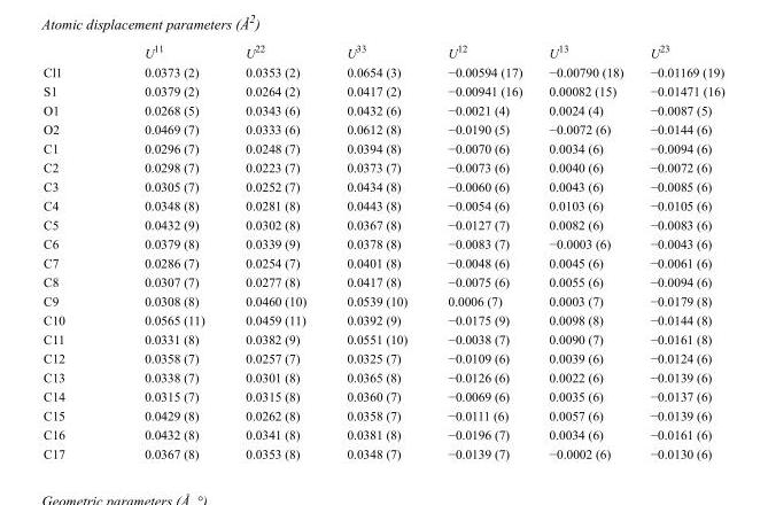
<table><thead><tr><td></td><td>U<sup>11</sup></td><td>U<sup>22</sup></td><td>U<sup>33</sup></td><td>U<sup>12</sup></td><td>U<sup>13</sup></td><td>U<sup>23</sup></td></tr></thead><tbody><tr><td>Cl1</td><td>0.0373 (2)</td><td>0.0353 (2)</td><td>0.0654 (3)</td><td>−0.00594 (17)</td><td>−0.00790 (18)</td><td>−0.01169 (19)</td></tr><tr><td>S1</td><td>0.0379 (2)</td><td>0.0264 (2)</td><td>0.0417 (2)</td><td>−0.00941 (16)</td><td>0.00082 (15)</td><td>−0.01471 (16)</td></tr><tr><td>O1</td><td>0.0268 (5)</td><td>0.0343 (6)</td><td>0.0432 (6)</td><td>−0.0021 (4)</td><td>0.0024 (4)</td><td>−0.0087 (5)</td></tr><tr><td>O2</td><td>0.0469 (7)</td><td>0.0333 (6)</td><td>0.0612 (8)</td><td>−0.0190 (5)</td><td>−0.0072 (6)</td><td>−0.0144 (6)</td></tr><tr><td>C1</td><td>0.0296 (7)</td><td>0.0248 (7)</td><td>0.0394 (8)</td><td>−0.0070 (6)</td><td>0.0034 (6)</td><td>−0.0094 (6)</td></tr><tr><td>C2</td><td>0.0298 (7)</td><td>0.0223 (7)</td><td>0.0373 (7)</td><td>−0.0073 (6)</td><td>0.0040 (6)</td><td>−0.0072 (6)</td></tr><tr><td>C3</td><td>0.0305 (7)</td><td>0.0252 (7)</td><td>0.0434 (8)</td><td>−0.0060 (6)</td><td>0.0043 (6)</td><td>−0.0085 (6)</td></tr><tr><td>C4</td><td>0.0348 (8)</td><td>0.0281 (8)</td><td>0.0443 (8)</td><td>−0.0054 (6)</td><td>0.0103 (6)</td><td>−0.0105 (6)</td></tr><tr><td>C5</td><td>0.0432 (9)</td><td>0.0302 (8)</td><td>0.0367 (8)</td><td>−0.0127 (7)</td><td>0.0082 (6)</td><td>−0.0083 (6)</td></tr><tr><td>C6</td><td>0.0379 (8)</td><td>0.0339 (9)</td><td>0.0378 (8)</td><td>−0.0083 (7)</td><td>−0.0003 (6)</td><td>−0.0043 (6)</td></tr><tr><td>C7</td><td>0.0286 (7)</td><td>0.0254 (7)</td><td>0.0401 (8)</td><td>−0.0048 (6)</td><td>0.0045 (6)</td><td>−0.0061 (6)</td></tr><tr><td>C8</td><td>0.0307 (7)</td><td>0.0277 (8)</td><td>0.0417 (8)</td><td>−0.0075 (6)</td><td>0.0055 (6)</td><td>−0.0094 (6)</td></tr><tr><td>C9</td><td>0.0308 (8)</td><td>0.0460 (10)</td><td>0.0539 (10)</td><td>0.0006 (7)</td><td>0.0003 (7)</td><td>−0.0179 (8)</td></tr><tr><td>C10</td><td>0.0565 (11)</td><td>0.0459 (11)</td><td>0.0392 (9)</td><td>−0.0175 (9)</td><td>0.0098 (8)</td><td>−0.0144 (8)</td></tr><tr><td>C11</td><td>0.0331 (8)</td><td>0.0382 (9)</td><td>0.0551 (10)</td><td>−0.0038 (7)</td><td>0.0090 (7)</td><td>−0.0161 (8)</td></tr><tr><td>C12</td><td>0.0358 (7)</td><td>0.0257 (7)</td><td>0.0325 (7)</td><td>−0.0109 (6)</td><td>0.0039 (6)</td><td>−0.0124 (6)</td></tr><tr><td>C13</td><td>0.0338 (7)</td><td>0.0301 (8)</td><td>0.0365 (8)</td><td>−0.0126 (6)</td><td>0.0022 (6)</td><td>−0.0139 (6)</td></tr><tr><td>C14</td><td>0.0315 (7)</td><td>0.0315 (8)</td><td>0.0360 (7)</td><td>−0.0069 (6)</td><td>0.0035 (6)</td><td>−0.0137 (6)</td></tr><tr><td>C15</td><td>0.0429 (8)</td><td>0.0262 (8)</td><td>0.0358 (7)</td><td>−0.0111 (6)</td><td>0.0057 (6)</td><td>−0.0139 (6)</td></tr><tr><td>C16</td><td>0.0432 (8)</td><td>0.0341 (8)</td><td>0.0381 (8)</td><td>−0.0196 (7)</td><td>0.0034 (6)</td><td>−0.0161 (6)</td></tr><tr><td>C17</td><td>0.0367 (8)</td><td>0.0353 (8)</td><td>0.0348 (7)</td><td>−0.0139 (7)</td><td>−0.0002 (6)</td><td>−0.0130 (6)</td></tr></tbody></table>